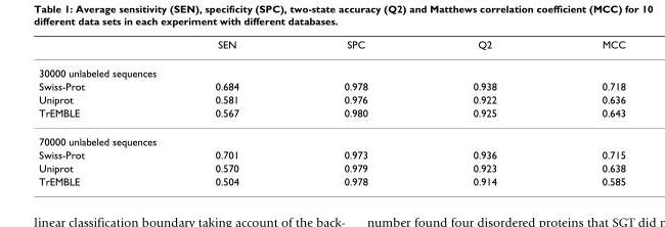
<table><thead><tr><td></td><td>SEN</td><td>SPC</td><td>Q2</td><td>MCC</td></tr></thead><tbody><tr><td colspan="5">30000 unlabeled sequences</td></tr><tr><td>Swiss-Prot</td><td>0.684</td><td>0.978</td><td>0.938</td><td>0.718</td></tr><tr><td>Uniprot</td><td>0.581</td><td>0.976</td><td>0.922</td><td>0.636</td></tr><tr><td>TrEMBLE</td><td>0.567</td><td>0.980</td><td>0.925</td><td>0.643</td></tr><tr><td colspan="5">70000 unlabeled sequences</td></tr><tr><td>Swiss-Prot</td><td>0.701</td><td>0.973</td><td>0.936</td><td>0.715</td></tr><tr><td>Uniprot</td><td>0.570</td><td>0.979</td><td>0.923</td><td>0.638</td></tr><tr><td>TrEMBLE</td><td>0.504</td><td>0.978</td><td>0.914</td><td>0.585</td></tr></tbody></table>